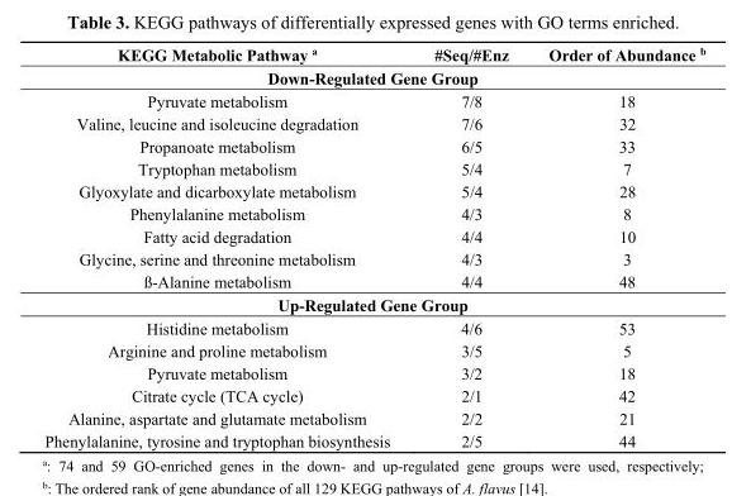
<table><thead><tr><td>KEGG Metabolic Pathway <sup>a</sup></td><td>#Seq/#Enz</td><td>Order of Abundance <sup>b</sup></td></tr></thead><tbody><tr><td colspan="3">Down-Regulated Gene Group</td></tr><tr><td>Pyruvate metabolism</td><td>7/8</td><td>18</td></tr><tr><td>Valine, leucine and isoleucine degradation</td><td>7/6</td><td>32</td></tr><tr><td>Propanoate metabolism</td><td>6/5</td><td>33</td></tr><tr><td>Tryptophan metabolism</td><td>5/4</td><td>7</td></tr><tr><td>Glyoxylate and dicarboxylate metabolism</td><td>5/4</td><td>28</td></tr><tr><td>Phenylalanine metabolism</td><td>4/3</td><td>8</td></tr><tr><td>Fatty acid degradation</td><td>4/4</td><td>10</td></tr><tr><td>Glycine, serine and threonine metabolism</td><td>4/3</td><td>3</td></tr><tr><td>ß-Alanine metabolism</td><td>4/4</td><td>48</td></tr><tr><td colspan="3">Up-Regulated Gene Group</td></tr><tr><td>Histidine metabolism</td><td>4/6</td><td>53</td></tr><tr><td>Arginine and proline metabolism</td><td>3/5</td><td>5</td></tr><tr><td>Pyruvate metabolism</td><td>3/2</td><td>18</td></tr><tr><td>Citrate cycle (TCA cycle)</td><td>2/1</td><td>42</td></tr><tr><td>Alanine, aspartate and glutamate metabolism</td><td>2/2</td><td>21</td></tr><tr><td>Phenylalanine, tyrosine and tryptophan biosynthesis</td><td>2/5</td><td>44</td></tr></tbody></table>